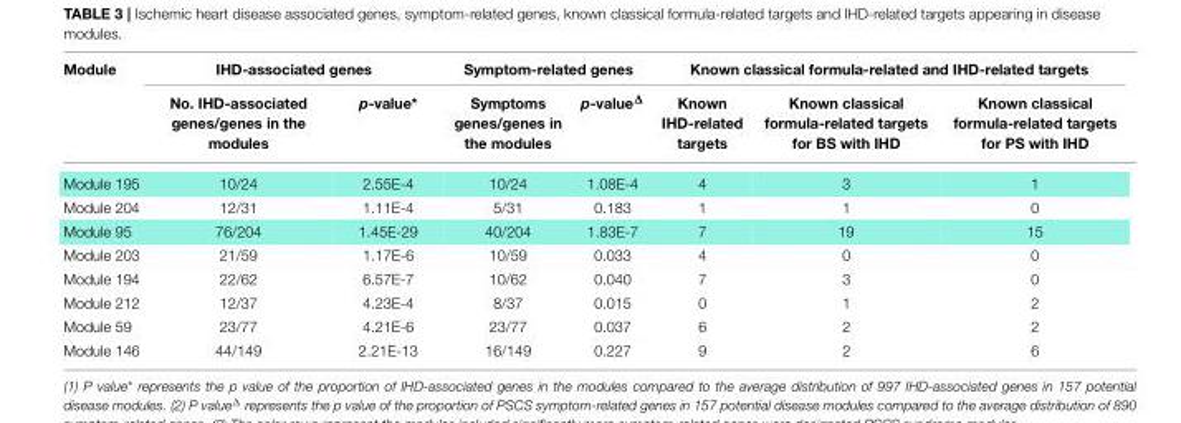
<table><thead><tr><td rowspan="2">Module</td><td colspan="2">IHD-associated genes</td><td colspan="2">Symptom-related genes</td><td colspan="3">Known classical formula-related and IHD-related targets</td></tr><tr><td>No. IHD-associated genes/genes in the modules</td><td>p-value*</td><td>Symptoms genes/genes in the modules</td><td>p-value<sup>Δ</sup></td><td>Known IHD-related targets</td><td>Known classical formula-related targets for BS with IHD</td><td>Known classical formula-related targets for PS with IHD</td></tr></thead><tbody><tr><td>Module 195</td><td>10/24</td><td>2.55E-4</td><td>10/24</td><td>1.08E-4</td><td>4</td><td>3</td><td>1</td></tr><tr><td>Module 204</td><td>12/31</td><td>1.11E-4</td><td>5/31</td><td>0.183</td><td>1</td><td>1</td><td>0</td></tr><tr><td>Module 95</td><td>76/204</td><td>1.45E-29</td><td>40/204</td><td>1.83E-7</td><td>7</td><td>19</td><td>15</td></tr><tr><td>Module 203</td><td>21/59</td><td>1.17E-6</td><td>10/59</td><td>0.033</td><td>4</td><td>0</td><td>0</td></tr><tr><td>Module 194</td><td>22/62</td><td>6.57E-7</td><td>10/62</td><td>0.040</td><td>7</td><td>3</td><td>0</td></tr><tr><td>Module 212</td><td>12/37</td><td>4.23E-4</td><td>8/37</td><td>0.015</td><td>0</td><td>1</td><td>2</td></tr><tr><td>Module 59</td><td>23/77</td><td>4.21E-6</td><td>23/77</td><td>0.037</td><td>6</td><td>2</td><td>2</td></tr><tr><td>Module 146</td><td>44/149</td><td>2.21E-13</td><td>16/149</td><td>0.227</td><td>9</td><td>2</td><td>6</td></tr></tbody></table>